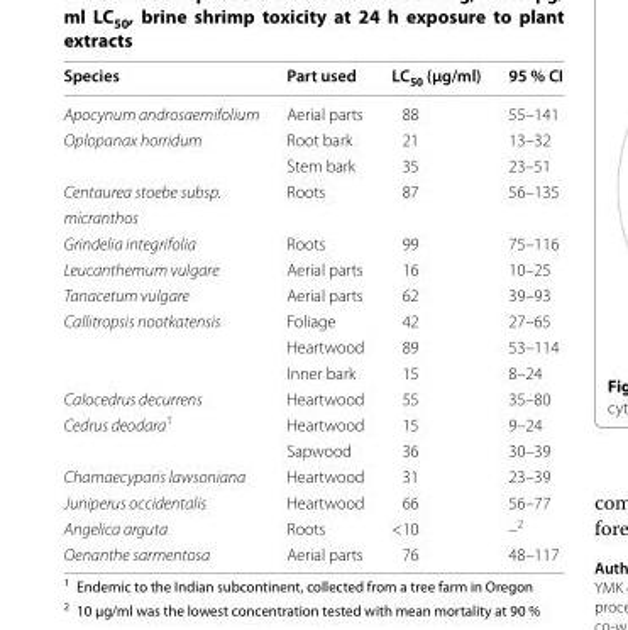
<table><thead><tr><td>Species</td><td>Part used</td><td>LC<sub>50</sub> (µg/ml)</td><td>95 % CI</td></tr></thead><tbody><tr><td>Apocynum androsaemifolium</td><td>Aerial parts</td><td>88</td><td>55–141</td></tr><tr><td rowspan="2">Oplopanax horridum</td><td>Root bark</td><td>21</td><td>13–32</td></tr><tr><td>Stem bark</td><td>35</td><td>23–51</td></tr><tr><td>Centaurea stoebe subsp.</td><td>Roots</td><td>87</td><td>56–135</td></tr><tr><td colspan="4">micranthos</td></tr><tr><td>Grindelia integrifolia</td><td>Roots</td><td>99</td><td>75–116</td></tr><tr><td>Leucanthemum vulgare</td><td>Aerial parts</td><td>16</td><td>10–25</td></tr><tr><td>Tanacetum vulgare</td><td>Aerial parts</td><td>62</td><td>39–93</td></tr><tr><td rowspan="3">Callitropsis nootkatensis</td><td>Foliage</td><td>42</td><td>27–65</td></tr><tr><td>Heartwood</td><td>89</td><td>53–114</td></tr><tr><td>Inner bark</td><td>15</td><td>8–24</td></tr><tr><td>Calocedrus decurrens</td><td>Heartwood</td><td>55</td><td>35–80</td></tr><tr><td rowspan="2">Cedrus deodara<sup>1</sup></td><td>Heartwood</td><td>15</td><td>9–24</td></tr><tr><td>Sapwood</td><td>36</td><td>30–39</td></tr><tr><td>Chamaecyparis lawsoniana</td><td>Heartwood</td><td>31</td><td>23–39</td></tr><tr><td>Juniperus occidentalis</td><td>Heartwood</td><td>66</td><td>56–77</td></tr><tr><td>Angelica arguta</td><td>Roots</td><td>&lt;10</td><td>–<sup>2</sup></td></tr><tr><td>Oenanthe sarmentosa</td><td>Aerial parts</td><td>76</td><td>48–117</td></tr></tbody></table>